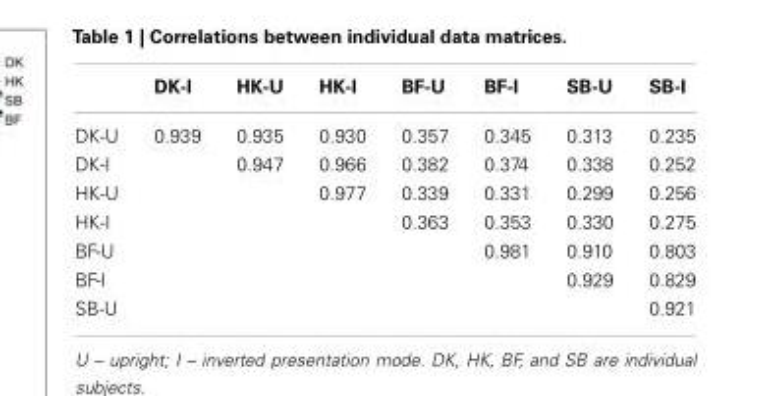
<table><thead><tr><td></td><td>DK-I</td><td>HK-U</td><td>HK-I</td><td>BF-U</td><td>BF-I</td><td>SB-U</td><td>SB-I</td></tr></thead><tbody><tr><td>DK-U</td><td>0.939</td><td>0.935</td><td>0.930</td><td>0.357</td><td>0.345</td><td>0.313</td><td>0.235</td></tr><tr><td>DK-I</td><td></td><td>0.947</td><td>0.966</td><td>0.382</td><td>0.374</td><td>0.338</td><td>0.252</td></tr><tr><td>HK-U</td><td></td><td></td><td>0.977</td><td>0.339</td><td>0.331</td><td>0.299</td><td>0.256</td></tr><tr><td>HK-I</td><td></td><td></td><td></td><td>0.363</td><td>0.353</td><td>0.330</td><td>0.275</td></tr><tr><td>BF-U</td><td></td><td></td><td></td><td></td><td>0.981</td><td>0.910</td><td>0.803</td></tr><tr><td>BF-I</td><td></td><td></td><td></td><td></td><td></td><td>0.929</td><td>0.829</td></tr><tr><td>SB-U</td><td></td><td></td><td></td><td></td><td></td><td></td><td>0.921</td></tr></tbody></table>